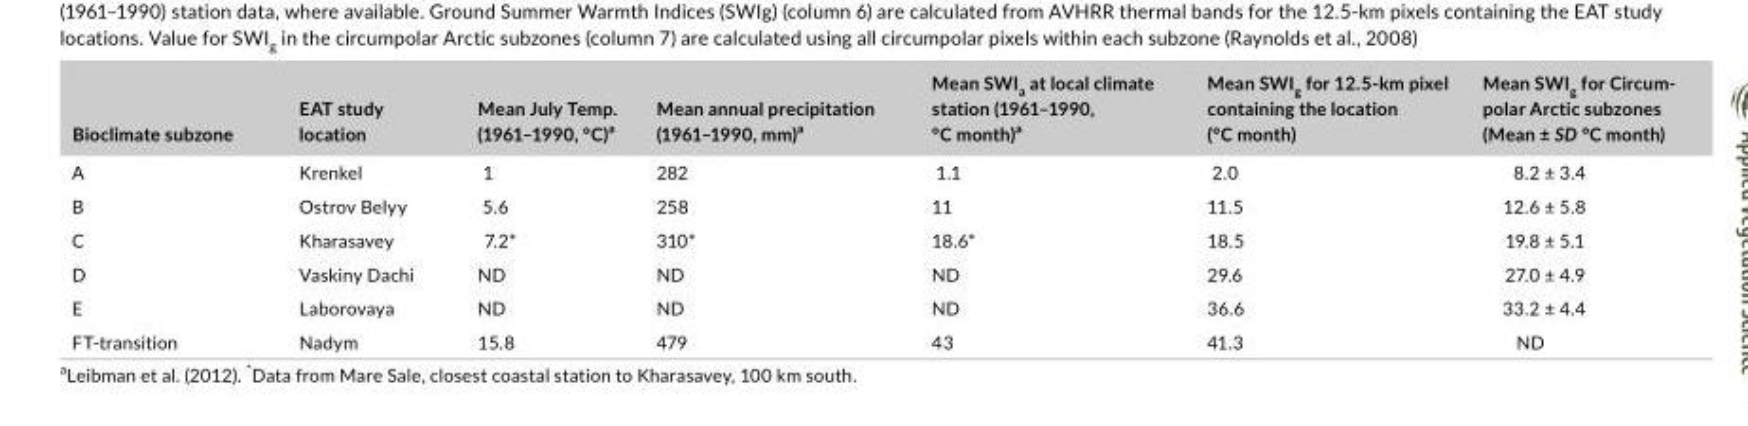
<table><thead><tr><td>Bioclimate subzone</td><td>EAT study location</td><td>Mean July Temp. (1961–1990, °C)<sup>a</sup></td><td>Mean annual precipitation (1961–1990, mm)<sup>a</sup></td><td>Mean SWI<sub>a</sub> at local climate station (1961–1990, °C month)<sup>a</sup></td><td>Mean SWI<sub>g</sub> for 12.5- km pixel containing the location (°C month)</td><td>Mean SWI<sub>g</sub> for Circum- polar Arctic subzones (Mean ± SD °C month)</td></tr></thead><tbody><tr><td>A</td><td>Krenkel</td><td>1</td><td>282</td><td>1.1</td><td>2.0</td><td>8.2 ± 3.4</td></tr><tr><td>B</td><td>Ostrov Belyy</td><td>5.6</td><td>258</td><td>11</td><td>11.5</td><td>12.6 ± 5.8</td></tr><tr><td>C</td><td>Kharasavey</td><td>7.2*</td><td>310*</td><td>18.6*</td><td>18.5</td><td>19.8 ± 5.1</td></tr><tr><td>D</td><td>Vaskiny Dachi</td><td>ND</td><td>ND</td><td>ND</td><td>29.6</td><td>27.0 ± 4.9</td></tr><tr><td>E</td><td>Laborovaya</td><td>ND</td><td>ND</td><td>ND</td><td>36.6</td><td>33.2 ± 4.4</td></tr><tr><td>FT- transition</td><td>Nadym</td><td>15.8</td><td>479</td><td>43</td><td>41.3</td><td>ND</td></tr></tbody></table>